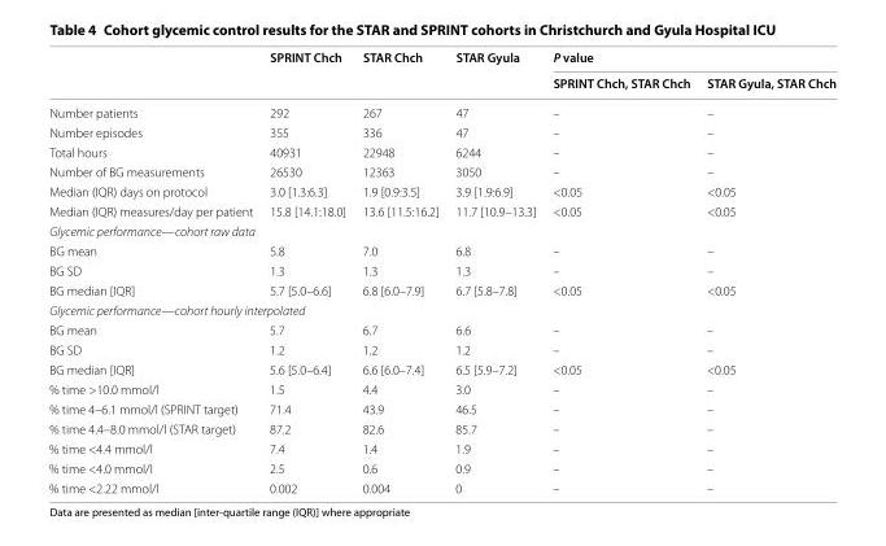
<table><thead><tr><td rowspan="2"></td><td rowspan="2">SPRINT Chch</td><td rowspan="2">STAR Chch</td><td rowspan="2">STAR Gyula</td><td colspan="2">P value</td></tr><tr><td>SPRINT Chch, STAR Chch</td><td>STAR Gyula, STAR Chch</td></tr></thead><tbody><tr><td>Number patients</td><td>292</td><td>267</td><td>47</td><td>–</td><td>–</td></tr><tr><td>Number episodes</td><td>355</td><td>336</td><td>47</td><td>–</td><td>–</td></tr><tr><td>Total hours</td><td>40931</td><td>22948</td><td>6244</td><td>–</td><td>–</td></tr><tr><td>Number of BG measurements</td><td>26530</td><td>12363</td><td>3050</td><td>–</td><td>–</td></tr><tr><td>Median (IQR) days on protocol</td><td>3.0 [1.3:6.3]</td><td>1.9 [0.9:3.5]</td><td>3.9 [1.9:6.9]</td><td>&lt;0.05</td><td>&lt;0.05</td></tr><tr><td>Median (IQR) measures/day per patient</td><td>15.8 [14.1:18.0]</td><td>13.6 [11.5:16.2]</td><td>11.7 [10.9–13.3]</td><td>&lt;0.05</td><td>&lt;0.05</td></tr><tr><td colspan="6">Glycemic performance—cohort raw data</td></tr><tr><td>BG mean</td><td>5.8</td><td>7.0</td><td>6.8</td><td>–</td><td>–</td></tr><tr><td>BG SD</td><td>1.3</td><td>1.3</td><td>1.3</td><td>–</td><td>–</td></tr><tr><td>BG median [IQR]</td><td>5.7 [5.0–6.6]</td><td>6.8 [6.0–7.9]</td><td>6.7 [5.8–7.8]</td><td>&lt;0.05</td><td>&lt;0.05</td></tr><tr><td colspan="6">Glycemic performance—cohort hourly interpolated</td></tr><tr><td>BG mean</td><td>5.7</td><td>6.7</td><td>6.6</td><td>–</td><td>–</td></tr><tr><td>BG SD</td><td>1.2</td><td>1.2</td><td>1.2</td><td>–</td><td>–</td></tr><tr><td>BG median [IQR]</td><td>5.6 [5.0–6.4]</td><td>6.6 [6.0–7.4]</td><td>6.5 [5.9–7.2]</td><td>&lt;0.05</td><td>&lt;0.05</td></tr><tr><td>% time &gt;10.0 mmol/l</td><td>1.5</td><td>4.4</td><td>3.0</td><td>–</td><td>–</td></tr><tr><td>% time 4–6.1 mmol/l (SPRINT target)</td><td>71.4</td><td>43.9</td><td>46.5</td><td>–</td><td>–</td></tr><tr><td>% time 4.4–8.0 mmol/l (STAR target)</td><td>87.2</td><td>82.6</td><td>85.7</td><td>–</td><td>–</td></tr><tr><td>% time &lt;4.4 mmol/l</td><td>7.4</td><td>1.4</td><td>1.9</td><td>–</td><td>–</td></tr><tr><td>% time &lt;4.0 mmol/l</td><td>2.5</td><td>0.6</td><td>0.9</td><td>–</td><td>–</td></tr><tr><td>% time &lt;2.22 mmol/l</td><td>0.002</td><td>0.004</td><td>0</td><td>–</td><td>–</td></tr></tbody></table>